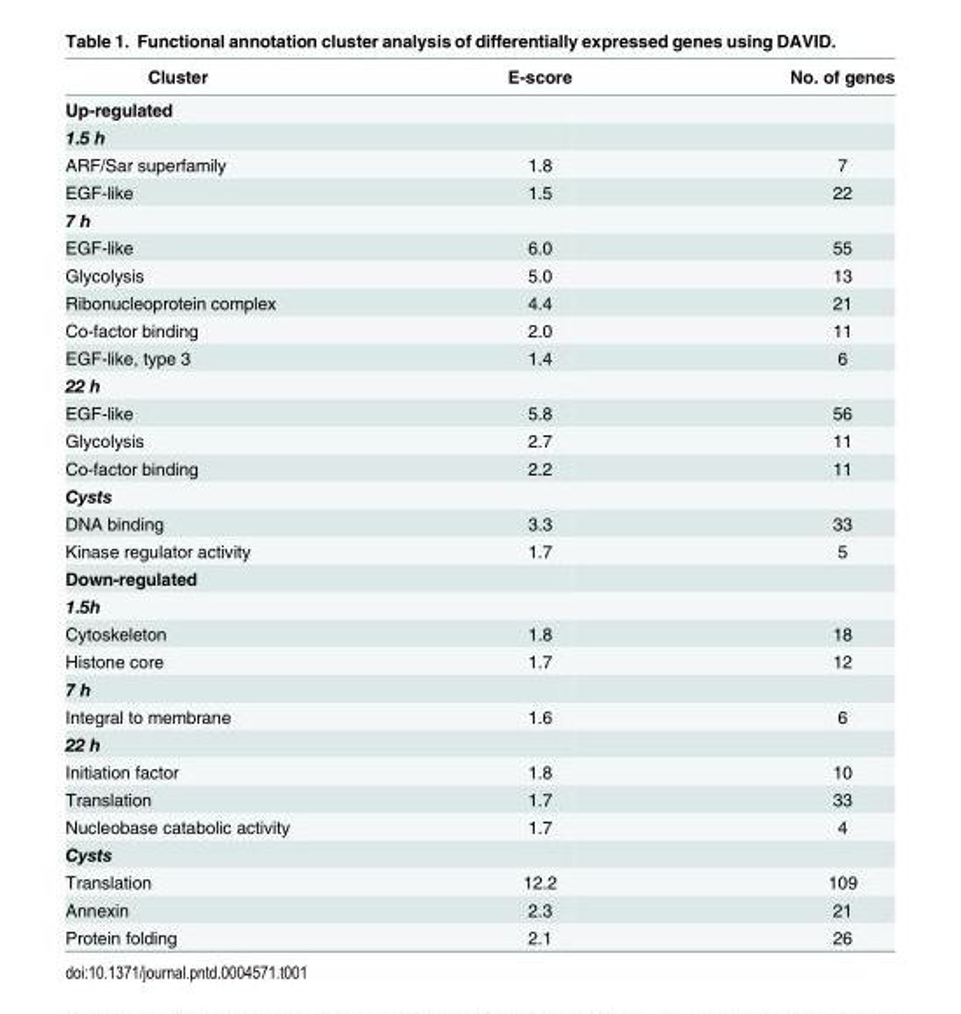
<table><thead><tr><td>Cluster</td><td>E-score</td><td>No. of genes</td></tr></thead><tbody><tr><td colspan="3">Up-regulated</td></tr><tr><td colspan="3">1.5 h</td></tr><tr><td>ARF/Sar superfamily</td><td>1.8</td><td>7</td></tr><tr><td>EGF-like</td><td>1.5</td><td>22</td></tr><tr><td colspan="3">7 h</td></tr><tr><td>EGF-like</td><td>6.0</td><td>55</td></tr><tr><td>Glycolysis</td><td>5.0</td><td>13</td></tr><tr><td>Ribonucleoprotein complex</td><td>4.4</td><td>21</td></tr><tr><td>Co-factor binding</td><td>2.0</td><td>11</td></tr><tr><td>EGF-like, type 3</td><td>1.4</td><td>6</td></tr><tr><td colspan="3">22 h</td></tr><tr><td>EGF-like</td><td>5.8</td><td>56</td></tr><tr><td>Glycolysis</td><td>2.7</td><td>11</td></tr><tr><td>Co-factor binding</td><td>2.2</td><td>11</td></tr><tr><td colspan="3">Cysts</td></tr><tr><td>DNA binding</td><td>3.3</td><td>33</td></tr><tr><td>Kinase regulator activity</td><td>1.7</td><td>5</td></tr><tr><td colspan="3">Down-regulated</td></tr><tr><td colspan="3">1.5h</td></tr><tr><td>Cytoskeleton</td><td>1.8</td><td>18</td></tr><tr><td>Histone core</td><td>1.7</td><td>12</td></tr><tr><td colspan="3">7 h</td></tr><tr><td>Integral to membrane</td><td>1.6</td><td>6</td></tr><tr><td colspan="3">22 h</td></tr><tr><td>Initiation factor</td><td>1.8</td><td>10</td></tr><tr><td>Translation</td><td>1.7</td><td>33</td></tr><tr><td>Nucleobase catabolic activity</td><td>1.7</td><td>4</td></tr><tr><td colspan="3">Cysts</td></tr><tr><td>Translation</td><td>12.2</td><td>109</td></tr><tr><td>Annexin</td><td>2.3</td><td>21</td></tr><tr><td>Protein folding</td><td>2.1</td><td>26</td></tr></tbody></table>